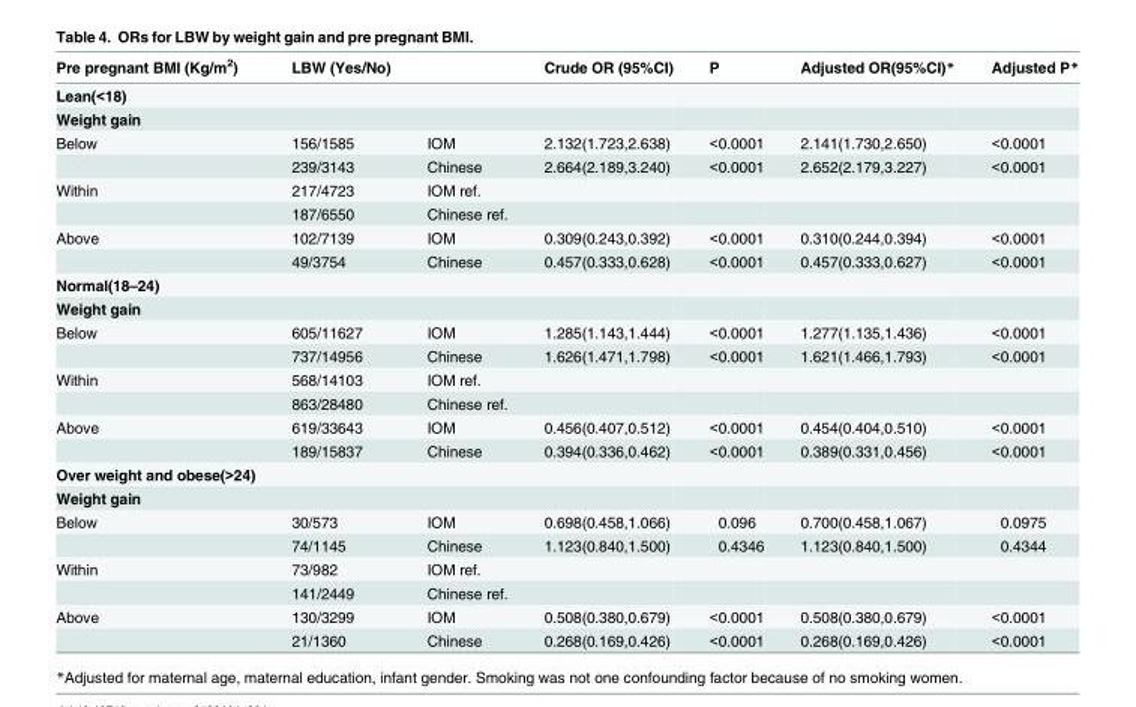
<table><thead><tr><td>Pre pregnant BMI (Kg/m<sup>2</sup>)</td><td>LBW (Yes/No)</td><td></td><td>Crude OR (95%CI)</td><td>P</td><td>Adjusted OR(95%CI)*</td><td>Adjusted P*</td></tr></thead><tbody><tr><td colspan="7">Lean(&lt;18)</td></tr><tr><td colspan="7">Weight gain</td></tr><tr><td rowspan="2">Below</td><td>156/1585</td><td>IOM</td><td>2.132(1.723,2.638)</td><td>&lt;0.0001</td><td>2.141(1.730,2.650)</td><td>&lt;0.0001</td></tr><tr><td>239/3143</td><td>Chinese</td><td>2.664(2.189,3.240)</td><td>&lt;0.0001</td><td>2.652(2.179,3.227)</td><td>&lt;0.0001</td></tr><tr><td rowspan="2">Within</td><td>217/4723</td><td>IOM ref.</td><td></td><td></td><td></td><td></td></tr><tr><td>187/6550</td><td>Chinese ref.</td><td></td><td></td><td></td><td></td></tr><tr><td rowspan="2">Above</td><td>102/7139</td><td>IOM</td><td>0.309(0.243,0.392)</td><td>&lt;0.0001</td><td>0.310(0.244,0.394)</td><td>&lt;0.0001</td></tr><tr><td>49/3754</td><td>Chinese</td><td>0.457(0.333,0.628)</td><td>&lt;0.0001</td><td>0.457(0.333,0.627)</td><td>&lt;0.0001</td></tr><tr><td colspan="7">Normal(18–24)</td></tr><tr><td colspan="7">Weight gain</td></tr><tr><td rowspan="2">Below</td><td>605/11627</td><td>IOM</td><td>1.285(1.143,1.444)</td><td>&lt;0.0001</td><td>1.277(1.135,1.436)</td><td>&lt;0.0001</td></tr><tr><td>737/14956</td><td>Chinese</td><td>1.626(1.471,1.798)</td><td>&lt;0.0001</td><td>1.621(1.466,1.793)</td><td>&lt;0.0001</td></tr><tr><td rowspan="2">Within</td><td>568/14103</td><td>IOM ref.</td><td></td><td></td><td></td><td></td></tr><tr><td>863/28480</td><td>Chinese ref.</td><td></td><td></td><td></td><td></td></tr><tr><td rowspan="2">Above</td><td>619/33643</td><td>IOM</td><td>0.456(0.407,0.512)</td><td>&lt;0.0001</td><td>0.454(0.404,0.510)</td><td>&lt;0.0001</td></tr><tr><td>189/15837</td><td>Chinese</td><td>0.394(0.336,0.462)</td><td>&lt;0.0001</td><td>0.389(0.331,0.456)</td><td>&lt;0.0001</td></tr><tr><td colspan="7">Over weight and obese(&gt;24)</td></tr><tr><td colspan="7">Weight gain</td></tr><tr><td rowspan="2">Below</td><td>30/573</td><td>IOM</td><td>0.698(0.458,1.066)</td><td>0.096</td><td>0.700(0.458,1.067)</td><td>0.0975</td></tr><tr><td>74/1145</td><td>Chinese</td><td>1.123(0.840,1.500)</td><td>0.4346</td><td>1.123(0.840,1.500)</td><td>0.4344</td></tr><tr><td rowspan="2">Within</td><td>73/982</td><td>IOM ref.</td><td></td><td></td><td></td><td></td></tr><tr><td>141/2449</td><td>Chinese ref.</td><td></td><td></td><td></td><td></td></tr><tr><td rowspan="2">Above</td><td>130/3299</td><td>IOM</td><td>0.508(0.380,0.679)</td><td>&lt;0.0001</td><td>0.508(0.380,0.679)</td><td>&lt;0.0001</td></tr><tr><td>21/1360</td><td>Chinese</td><td>0.268(0.169,0.426)</td><td>&lt;0.0001</td><td>0.268(0.169,0.426)</td><td>&lt;0.0001</td></tr></tbody></table>